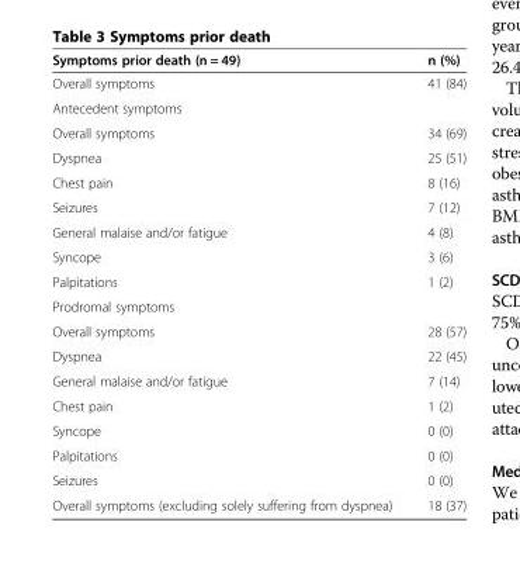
<table><thead><tr><td>Symptoms prior death (n = 49)</td><td>n (%)</td></tr></thead><tbody><tr><td>Overall symptoms</td><td>41 (84)</td></tr><tr><td colspan="2">Antecedent symptoms</td></tr><tr><td>Overall symptoms</td><td>34 (69)</td></tr><tr><td>Dyspnea</td><td>25 (51)</td></tr><tr><td>Chest pain</td><td>8 (16)</td></tr><tr><td>Seizures</td><td>7 (12)</td></tr><tr><td>General malaise and/or fatigue</td><td>4 (8)</td></tr><tr><td>Syncope</td><td>3 (6)</td></tr><tr><td>Palpitations</td><td>1 (2)</td></tr><tr><td colspan="2">Prodromal symptoms</td></tr><tr><td>Overall symptoms</td><td>28 (57)</td></tr><tr><td>Dyspnea</td><td>22 (45)</td></tr><tr><td>General malaise and/or fatigue</td><td>7 (14)</td></tr><tr><td>Chest pain</td><td>1 (2)</td></tr><tr><td>Syncope</td><td>0 (0)</td></tr><tr><td>Palpitations</td><td>0 (0)</td></tr><tr><td>Seizures</td><td>0 (0)</td></tr><tr><td>Overall symptoms (excluding solely suffering from dyspnea)</td><td>18 (37)</td></tr></tbody></table>